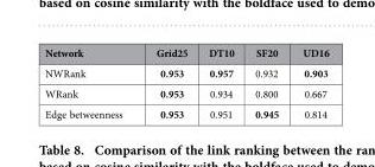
<table><thead><tr><td>Network</td><td>Grid25</td><td>DT10</td><td>SF20</td><td>UD16</td></tr></thead><tbody><tr><td>NWRank</td><td>0.953</td><td>0.957</td><td>0.932</td><td>0.903</td></tr><tr><td>WRank</td><td>0.953</td><td>0.934</td><td>0.800</td><td>0.667</td></tr><tr><td>Edge betweenness</td><td>0.953</td><td>0.951</td><td>0.945</td><td>0.814</td></tr></tbody></table>